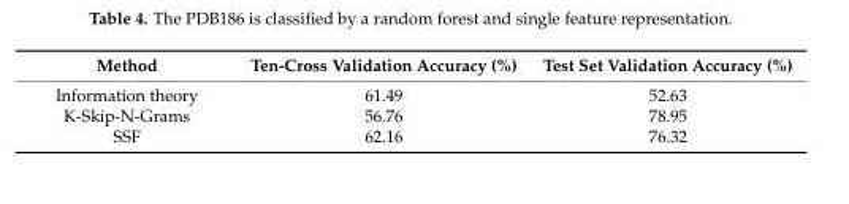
<table><thead><tr><td>Method</td><td>Ten-Cross Validation Accuracy (%)</td><td>Test Set Validation Accuracy (%)</td></tr></thead><tbody><tr><td>Information theory</td><td>61.49</td><td>52.63</td></tr><tr><td>K-Skip-N-Grams</td><td>56.76</td><td>78.95</td></tr><tr><td>SSF</td><td>62.16</td><td>76.32</td></tr></tbody></table>